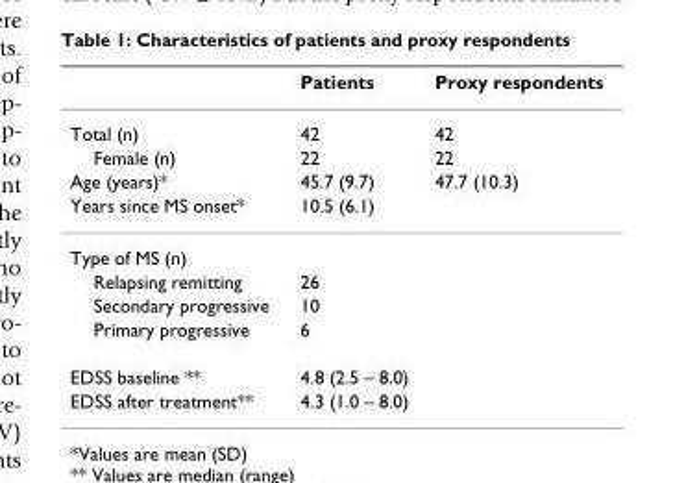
<table><thead><tr><td></td><td>Patients</td><td>Proxy respondents</td></tr></thead><tbody><tr><td>Total (n)</td><td>42</td><td>42</td></tr><tr><td>Female (n)</td><td>22</td><td>22</td></tr><tr><td>Age (years)*</td><td>45.7 (9.7)</td><td>47.7 (10.3)</td></tr><tr><td>Years since MS onset*</td><td>10.5 (6.1)</td><td></td></tr><tr><td colspan="3">Type of MS (n)</td></tr><tr><td>Relapsing remitting</td><td>26</td><td></td></tr><tr><td>Secondary progressive</td><td>10</td><td></td></tr><tr><td>Primary progressive</td><td>6</td><td></td></tr><tr><td>EDSS baseline **</td><td>4.8 (2.5 – 8.0)</td><td></td></tr><tr><td>EDSS after treatment**</td><td>4.3 (1.0 – 8.0)</td><td></td></tr></tbody></table>